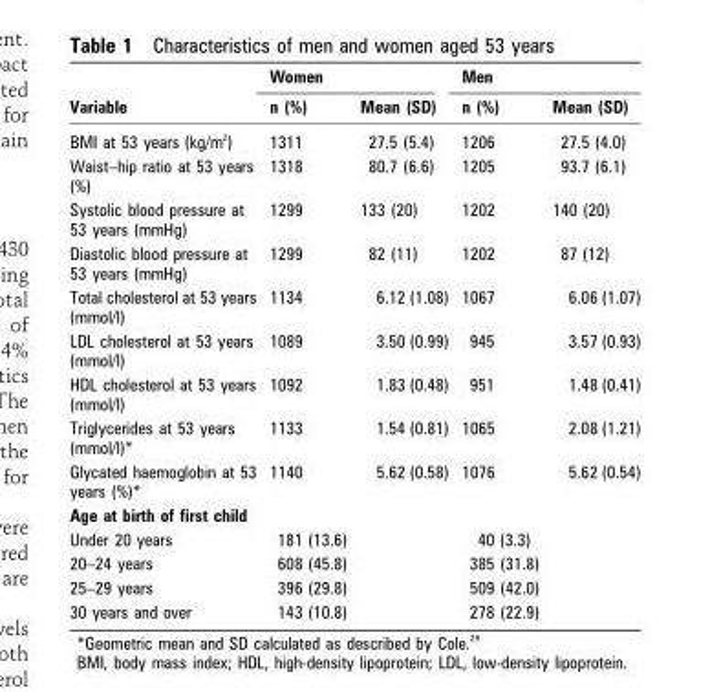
<table><thead><tr><td rowspan="2">Variable</td><td colspan="2">Women</td><td colspan="2">Men</td></tr><tr><td>n (%)</td><td>Mean (SD)</td><td>n (%)</td><td>Mean (SD)</td></tr></thead><tbody><tr><td>BMI at 53 years (kg/m <sup>2</sup>)</td><td>1311</td><td>27.5 (5.4)</td><td>1206</td><td>27.5 (4.0)</td></tr><tr><td>Waist–hip ratio at 53 years (%)</td><td>1318</td><td>80.7 (6.6)</td><td>1205</td><td>93.7 (6.1)</td></tr><tr><td>Systolic blood pressure at 53 years (mmHg)</td><td>1299</td><td>133 (20)</td><td>1202</td><td>140 (20)</td></tr><tr><td>Diastolic blood pressure at 53 years (mmHg)</td><td>1299</td><td>82 (11)</td><td>1202</td><td>87 (12)</td></tr><tr><td>Total cholesterol at 53 years (mmol/l)</td><td>1134</td><td>6.12 (1.08)</td><td>1067</td><td>6.06 (1.07)</td></tr><tr><td>LDL cholesterol at 53 years (mmol/l)</td><td>1089</td><td>3.50 (0.99)</td><td>945</td><td>3.57 (0.93)</td></tr><tr><td>HDL cholesterol at 53 years (mmol/l)</td><td>1092</td><td>1.83 (0.48)</td><td>951</td><td>1.48 (0.41)</td></tr><tr><td>Triglycerides at 53 years (mmol/l)*</td><td>1133</td><td>1.54 (0.81)</td><td>1065</td><td>2.08 (1.21)</td></tr><tr><td>Glycated haemoglobin at 53 years (%)*</td><td>1140</td><td>5.62 (0.58)</td><td>1076</td><td>5.62 (0.54)</td></tr><tr><td colspan="5">Age at birth of first child</td></tr><tr><td>Under 20 years</td><td>181 (13.6)</td><td></td><td>40 (3.3)</td><td></td></tr><tr><td>20–24 years</td><td>608 (45.8)</td><td></td><td>385 (31.8)</td><td></td></tr><tr><td>25–29 years</td><td>396 (29.8)</td><td></td><td>509 (42.0)</td><td></td></tr><tr><td>30 years and over</td><td>143 (10.8)</td><td></td><td>278 (22.9)</td><td></td></tr></tbody></table>